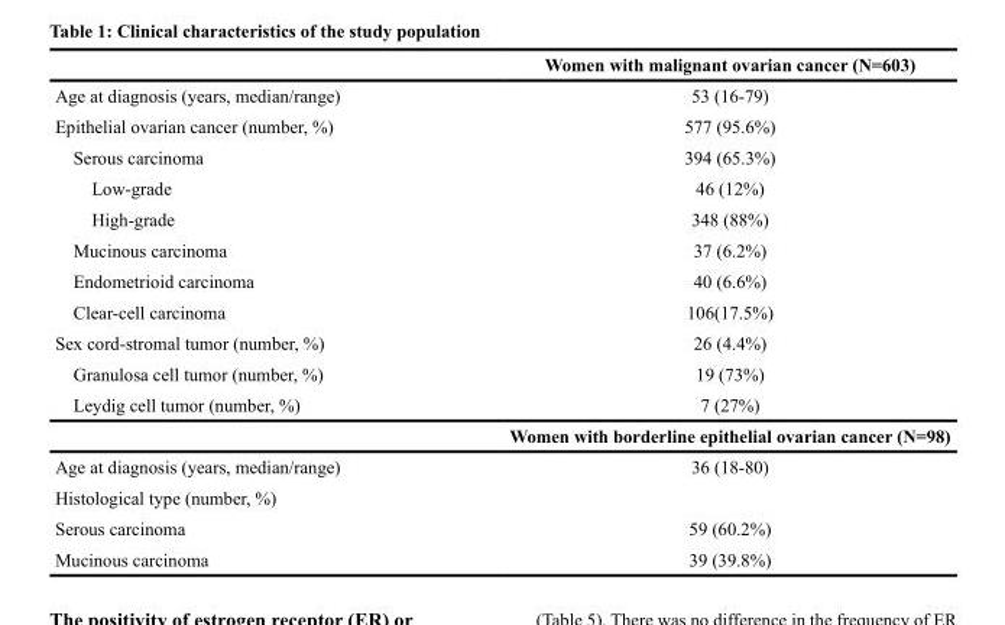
<table><thead><tr><td></td><td>Women with malignant ovarian cancer (N=603)</td></tr></thead><tbody><tr><td>Age at diagnosis (years, median/range)</td><td>53 (16-79)</td></tr><tr><td>Epithelial ovarian cancer (number, %)</td><td>577 (95.6%)</td></tr><tr><td>Serous carcinoma</td><td>394 (65.3%)</td></tr><tr><td>Low-grade</td><td>46 (12%)</td></tr><tr><td>High-grade</td><td>348 (88%)</td></tr><tr><td>Mucinous carcinoma</td><td>37 (6.2%)</td></tr><tr><td>Endometrioid carcinoma</td><td>40 (6.6%)</td></tr><tr><td>Clear-cell carcinoma</td><td>106(17.5%)</td></tr><tr><td>Sex cord-stromal tumor (number, %)</td><td>26 (4.4%)</td></tr><tr><td>Granulosa cell tumor (number, %)</td><td>19 (73%)</td></tr><tr><td rowspan="2">Leydig cell tumor (number, %)</td><td>7 (27%)</td></tr><tr><td>Women with borderline epithelial ovarian cancer (N=98)</td></tr><tr><td>Age at diagnosis (years, median/range)</td><td>36 (18-80)</td></tr><tr><td colspan="2">Histological type (number, %)</td></tr><tr><td>Serous carcinoma</td><td>59 (60.2%)</td></tr><tr><td>Mucinous carcinoma</td><td>39 (39.8%)</td></tr></tbody></table>